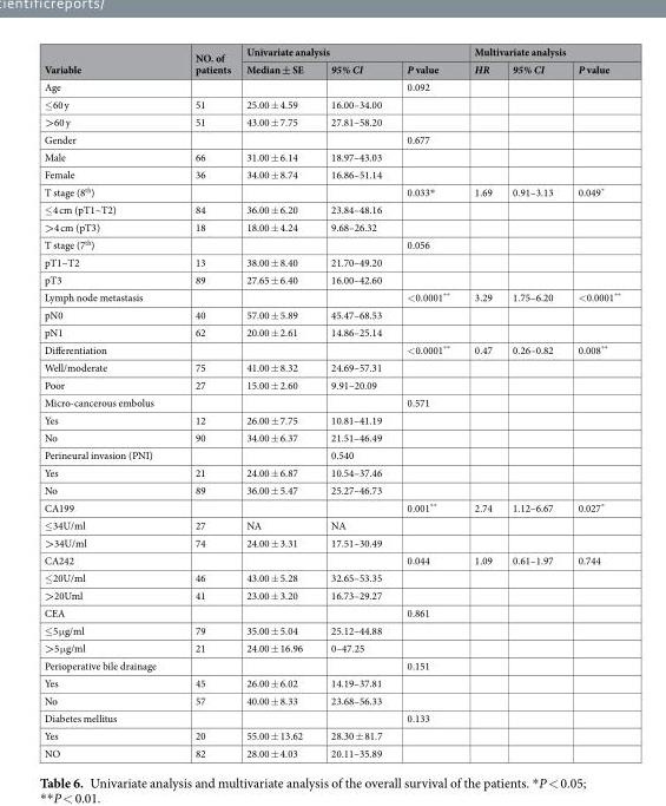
<table><thead><tr><td rowspan="2">Variable</td><td rowspan="2">NO. of patients</td><td colspan="3">Univariate analysis</td><td colspan="3">Multivariate analysis</td></tr><tr><td>Median ± SE</td><td>95% CI</td><td>P value</td><td>HR</td><td>95% CI</td><td>P value</td></tr></thead><tbody><tr><td>Age</td><td></td><td></td><td></td><td>0.092</td><td></td><td></td><td></td></tr><tr><td>≤60 y</td><td>51</td><td>25.00 ± 4.59</td><td>16.00–34.00</td><td></td><td></td><td></td><td></td></tr><tr><td>&gt;60 y</td><td>51</td><td>43.00 ± 7.75</td><td>27.81–58.20</td><td></td><td></td><td></td><td></td></tr><tr><td>Gender</td><td></td><td></td><td></td><td>0.677</td><td></td><td></td><td></td></tr><tr><td>Male</td><td>66</td><td>31.00 ± 6.14</td><td>18.97–43.03</td><td></td><td></td><td></td><td></td></tr><tr><td>Female</td><td>36</td><td>34.00 ± 8.74</td><td>16.86–51.14</td><td></td><td></td><td></td><td></td></tr><tr><td>T stage (8<sup>th</sup>)</td><td></td><td></td><td></td><td>0.033*</td><td>1.69</td><td>0.91–3.13</td><td>0.049*</td></tr><tr><td>≤4 cm (pT1~T2)</td><td>84</td><td>36.00 ± 6.20</td><td>23.84–48.16</td><td></td><td></td><td></td><td></td></tr><tr><td>&gt;4 cm (pT3)</td><td>18</td><td>18.00 ± 4.24</td><td>9.68–26.32</td><td></td><td></td><td></td><td></td></tr><tr><td>T stage (7<sup>th</sup>)</td><td></td><td></td><td></td><td>0.056</td><td></td><td></td><td></td></tr><tr><td>pT1~T2</td><td>13</td><td>38.00 ± 8.40</td><td>21.70–49.20</td><td></td><td></td><td></td><td></td></tr><tr><td>pT3</td><td>89</td><td>27.65 ± 6.40</td><td>16.00–42.60</td><td></td><td></td><td></td><td></td></tr><tr><td>Lymph node metastasis</td><td></td><td></td><td></td><td>&lt;0.0001**</td><td>3.29</td><td>1.75–6.20</td><td>&lt;0.0001**</td></tr><tr><td>pN0</td><td>40</td><td>57.00 ± 5.89</td><td>45.47–68.53</td><td></td><td></td><td></td><td></td></tr><tr><td>pN1</td><td>62</td><td>20.00 ± 2.61</td><td>14.86–25.14</td><td></td><td></td><td></td><td></td></tr><tr><td>Differentiation</td><td></td><td></td><td></td><td>&lt;0.0001**</td><td>0.47</td><td>0.26–0.82</td><td>0.008**</td></tr><tr><td>Well/moderate</td><td>75</td><td>41.00 ± 8.32</td><td>24.69–57.31</td><td></td><td></td><td></td><td></td></tr><tr><td>Poor</td><td>27</td><td>15.00 ± 2.60</td><td>9.91–20.09</td><td></td><td></td><td></td><td></td></tr><tr><td>Micro-cancerous embolus</td><td></td><td></td><td></td><td>0.571</td><td></td><td></td><td></td></tr><tr><td>Yes</td><td>12</td><td>26.00 ± 7.75</td><td>10.81–41.19</td><td></td><td></td><td></td><td></td></tr><tr><td>No</td><td>90</td><td>34.00 ± 6.37</td><td>21.51–46.49</td><td></td><td></td><td></td><td></td></tr><tr><td>Perineural invasion (PNI)</td><td></td><td></td><td>0.540</td><td></td><td></td><td></td><td></td></tr><tr><td>Yes</td><td>21</td><td>24.00 ± 6.87</td><td>10.54–37.46</td><td></td><td></td><td></td><td></td></tr><tr><td>No</td><td>89</td><td>36.00 ± 5.47</td><td>25.27–46.73</td><td></td><td></td><td></td><td></td></tr><tr><td>CA199</td><td></td><td></td><td></td><td>0.001**</td><td>2.74</td><td>1.12–6.67</td><td>0.027*</td></tr><tr><td>≤34U/ml</td><td>27</td><td>NA</td><td>NA</td><td></td><td></td><td></td><td></td></tr><tr><td>&gt;34U/ml</td><td>74</td><td>24.00 ± 3.31</td><td>17.51–30.49</td><td></td><td></td><td></td><td></td></tr><tr><td>CA242</td><td></td><td></td><td></td><td>0.044</td><td>1.09</td><td>0.61–1.97</td><td>0.744</td></tr><tr><td>≤20U/ml</td><td>46</td><td>43.00 ± 5.28</td><td>32.65–53.35</td><td></td><td></td><td></td><td></td></tr><tr><td>&gt;20Uml</td><td>41</td><td>23.00 ± 3.20</td><td>16.73–29.27</td><td></td><td></td><td></td><td></td></tr><tr><td>CEA</td><td></td><td></td><td></td><td>0.861</td><td></td><td></td><td></td></tr><tr><td>≤5 μg/ml</td><td>79</td><td>35.00 ± 5.04</td><td>25.12–44.88</td><td></td><td></td><td></td><td></td></tr><tr><td>&gt;5 μg/ml</td><td>21</td><td>24.00 ± 16.96</td><td>0–47.25</td><td></td><td></td><td></td><td></td></tr><tr><td>Perioperative bile drainage</td><td></td><td></td><td></td><td>0.151</td><td></td><td></td><td></td></tr><tr><td>Yes</td><td>45</td><td>26.00 ± 6.02</td><td>14.19–37.81</td><td></td><td></td><td></td><td></td></tr><tr><td>No</td><td>57</td><td>40.00 ± 8.33</td><td>23.68–56.33</td><td></td><td></td><td></td><td></td></tr><tr><td>Diabetes mellitus</td><td></td><td></td><td></td><td>0.133</td><td></td><td></td><td></td></tr><tr><td>Yes</td><td>20</td><td>55.00 ± 13.62</td><td>28.30 ± 81.7</td><td></td><td></td><td></td><td></td></tr><tr><td>NO</td><td>82</td><td>28.00 ± 4.03</td><td>20.11–35.89</td><td></td><td></td><td></td><td></td></tr></tbody></table>